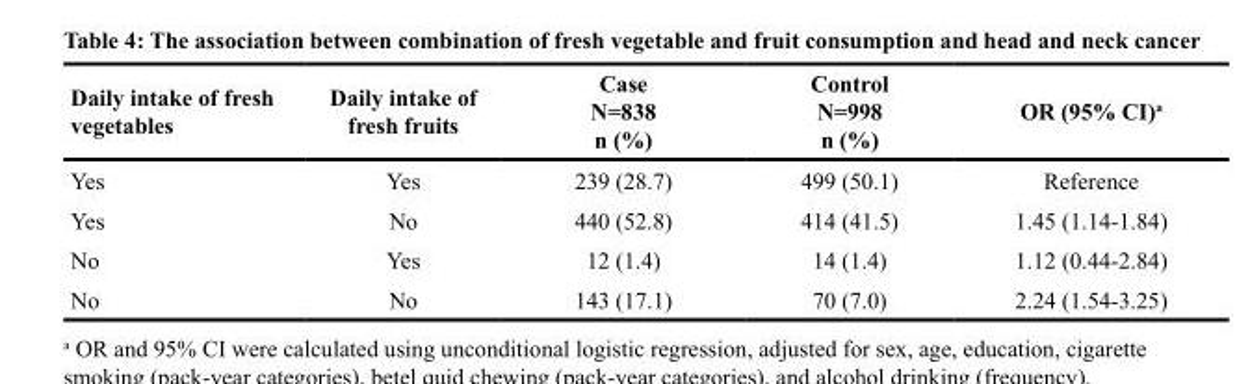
<table><thead><tr><td>Daily intake of fresh vegetables</td><td>Daily intake of fresh fruits</td><td>Case N=838 n (%)</td><td>Control N=998 n (%)</td><td>OR (95% CI)<sup>a</sup></td></tr></thead><tbody><tr><td>Yes</td><td>Yes</td><td>239 (28.7)</td><td>499 (50.1)</td><td>Reference</td></tr><tr><td>Yes</td><td>No</td><td>440 (52.8)</td><td>414 (41.5)</td><td>1.45 (1.14-1.84)</td></tr><tr><td>No</td><td>Yes</td><td>12 (1.4)</td><td>14 (1.4)</td><td>1.12 (0.44-2.84)</td></tr><tr><td>No</td><td>No</td><td>143 (17.1)</td><td>70 (7.0)</td><td>2.24 (1.54-3.25)</td></tr></tbody></table>